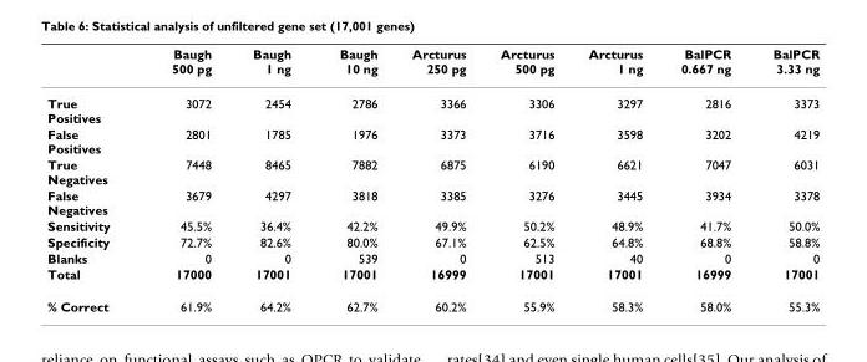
<table><thead><tr><td></td><td>Baugh 500 pg</td><td>Baugh 1 ng</td><td>Baugh 10 ng</td><td>Arcturus 250 pg</td><td>Arcturus 500 pg</td><td>Arcturus 1 ng</td><td>BalPCR 0.667 ng</td><td>BalPCR 3.33 ng</td></tr></thead><tbody><tr><td>True Positives</td><td>3072</td><td>2454</td><td>2786</td><td>3366</td><td>3306</td><td>3297</td><td>2816</td><td>3373</td></tr><tr><td>False Positives</td><td>2801</td><td>1785</td><td>1976</td><td>3373</td><td>3716</td><td>3598</td><td>3202</td><td>4219</td></tr><tr><td>True Negatives</td><td>7448</td><td>8465</td><td>7882</td><td>6875</td><td>6190</td><td>6621</td><td>7047</td><td>6031</td></tr><tr><td>False Negatives</td><td>3679</td><td>4297</td><td>3818</td><td>3385</td><td>3276</td><td>3445</td><td>3934</td><td>3378</td></tr><tr><td>Sensitivity</td><td>45.5%</td><td>36.4%</td><td>42.2%</td><td>49.9%</td><td>50.2%</td><td>48.9%</td><td>41.7%</td><td>50.0%</td></tr><tr><td>Specificity</td><td>72.7%</td><td>82.6%</td><td>80.0%</td><td>67.1%</td><td>62.5%</td><td>64.8%</td><td>68.8%</td><td>58.8%</td></tr><tr><td>Blanks</td><td>0</td><td>0</td><td>539</td><td>0</td><td>513</td><td>40</td><td>0</td><td>0</td></tr><tr><td>Total</td><td>17000</td><td>17001</td><td>17001</td><td>16999</td><td>17001</td><td>17001</td><td>16999</td><td>17001</td></tr><tr><td>% Correct</td><td>61.9%</td><td>64.2%</td><td>62.7%</td><td>60.2%</td><td>55.9%</td><td>58.3%</td><td>58.0%</td><td>55.3%</td></tr></tbody></table>